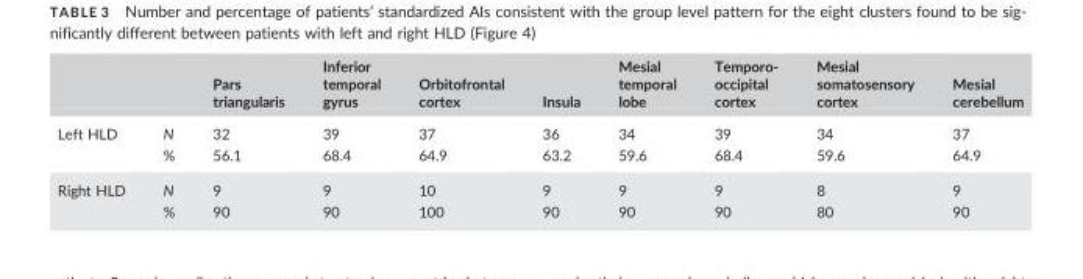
<table><thead><tr><td></td><td></td><td>Pars triangularis</td><td>Inferior temporal gyrus</td><td>Orbitofrontal cortex</td><td>Insula</td><td>Mesial temporal lobe</td><td>Temporo- occipital cortex</td><td>Mesial somatosensory cortex</td><td>Mesial cerebellum</td></tr></thead><tbody><tr><td rowspan="2">Left HLD</td><td>N</td><td>32</td><td>39</td><td>37</td><td>36</td><td>34</td><td>39</td><td>34</td><td>37</td></tr><tr><td>%</td><td>56.1</td><td>68.4</td><td>64.9</td><td>63.2</td><td>59.6</td><td>68.4</td><td>59.6</td><td>64.9</td></tr><tr><td rowspan="2">Right HLD</td><td>N</td><td>9</td><td>9</td><td>10</td><td>9</td><td>9</td><td>9</td><td>8</td><td>9</td></tr><tr><td>%</td><td>90</td><td>90</td><td>100</td><td>90</td><td>90</td><td>90</td><td>80</td><td>90</td></tr></tbody></table>